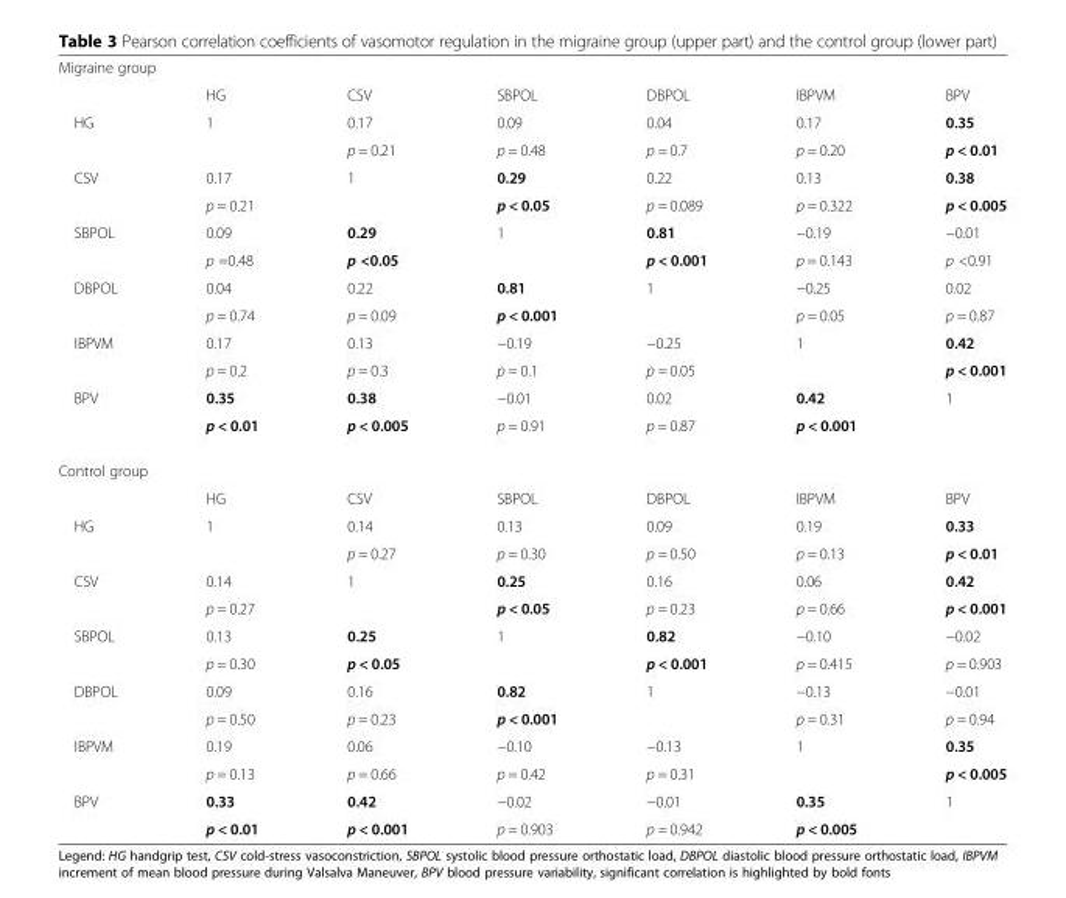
<table><tbody><tr><td colspan="7">Migraine group</td></tr><tr><td></td><td>HG</td><td>CSV</td><td>SBPOL</td><td>DBPOL</td><td>IBPVM</td><td>BPV</td></tr><tr><td rowspan="2">HG</td><td rowspan="2">1</td><td>0.17</td><td>0.09</td><td>0.04</td><td>0.17</td><td>0.35</td></tr><tr><td>p = 0.21</td><td>p = 0.48</td><td>p = 0.7</td><td>p = 0.20</td><td>p &lt; 0.01</td></tr><tr><td rowspan="2">CSV</td><td>0.17</td><td rowspan="2">1</td><td>0.29</td><td>0.22</td><td>0.13</td><td>0.38</td></tr><tr><td>p = 0.21</td><td>p &lt; 0.05</td><td>p = 0.089</td><td>p = 0.322</td><td>p &lt; 0.005</td></tr><tr><td rowspan="2">SBPOL</td><td>0.09</td><td>0.29</td><td rowspan="2">1</td><td>0.81</td><td>−0.19</td><td>−0.01</td></tr><tr><td>p =0.48</td><td>p &lt;0.05</td><td>p &lt; 0.001</td><td>p = 0.143</td><td>p &lt;0.91</td></tr><tr><td rowspan="2">DBPOL</td><td>0.04</td><td>0.22</td><td>0.81</td><td rowspan="2">1</td><td>−0.25</td><td>0.02</td></tr><tr><td>p = 0.74</td><td>p = 0.09</td><td>p &lt; 0.001</td><td>p = 0.05</td><td>p = 0.87</td></tr><tr><td rowspan="2">IBPVM</td><td>0.17</td><td>0.13</td><td>−0.19</td><td>−0.25</td><td rowspan="2">1</td><td>0.42</td></tr><tr><td>p = 0.2</td><td>p = 0.3</td><td>p = 0.1</td><td>p = 0.05</td><td>p &lt; 0.001</td></tr><tr><td rowspan="2">BPV</td><td>0.35</td><td>0.38</td><td>−0.01</td><td>0.02</td><td>0.42</td><td rowspan="2">1</td></tr><tr><td>p &lt; 0.01</td><td>p &lt; 0.005</td><td>p = 0.91</td><td>p = 0.87</td><td>p &lt; 0.001</td></tr><tr><td colspan="7">Control group</td></tr><tr><td></td><td>HG</td><td>CSV</td><td>SBPOL</td><td>DBPOL</td><td>IBPVM</td><td>BPV</td></tr><tr><td rowspan="2">HG</td><td rowspan="2">1</td><td>0.14</td><td>0.13</td><td>0.09</td><td>0.19</td><td>0.33</td></tr><tr><td>p = 0.27</td><td>p = 0.30</td><td>p = 0.50</td><td>p = 0.13</td><td>p &lt; 0.01</td></tr><tr><td rowspan="2">CSV</td><td>0.14</td><td rowspan="2">1</td><td>0.25</td><td>0.16</td><td>0.06</td><td>0.42</td></tr><tr><td>p = 0.27</td><td>p &lt; 0.05</td><td>p = 0.23</td><td>p = 0.66</td><td>p &lt; 0.001</td></tr><tr><td rowspan="2">SBPOL</td><td>0.13</td><td>0.25</td><td rowspan="2">1</td><td>0.82</td><td>−0.10</td><td>−0.02</td></tr><tr><td>p = 0.30</td><td>p &lt; 0.05</td><td>p &lt; 0.001</td><td>p = 0.415</td><td>p = 0.903</td></tr><tr><td rowspan="2">DBPOL</td><td>0.09</td><td>0.16</td><td>0.82</td><td rowspan="2">1</td><td>−0.13</td><td>−0.01</td></tr><tr><td>p = 0.50</td><td>p = 0.23</td><td>p &lt; 0.001</td><td>p = 0.31</td><td>p = 0.94</td></tr><tr><td rowspan="2">IBPVM</td><td>0.19</td><td>0.06</td><td>−0.10</td><td>−0.13</td><td rowspan="2">1</td><td>0.35</td></tr><tr><td>p = 0.13</td><td>p = 0.66</td><td>p = 0.42</td><td>p = 0.31</td><td>p &lt; 0.005</td></tr><tr><td rowspan="2">BPV</td><td>0.33</td><td>0.42</td><td>−0.02</td><td>−0.01</td><td>0.35</td><td rowspan="2">1</td></tr><tr><td>p &lt; 0.01</td><td>p &lt; 0.001</td><td>p = 0.903</td><td>p = 0.942</td><td>p &lt; 0.005</td></tr></tbody></table>